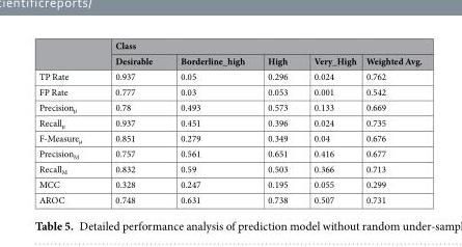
<table><thead><tr><td rowspan="2"></td><td colspan="5">Class</td></tr><tr><td>Desirable</td><td>Borderline_high</td><td>High</td><td>Very_High</td><td>Weighted Avg.</td></tr></thead><tbody><tr><td>TP Rate</td><td>0.937</td><td>0.05</td><td>0.296</td><td>0.024</td><td>0.762</td></tr><tr><td>FP Rate</td><td>0.777</td><td>0.03</td><td>0.053</td><td>0.001</td><td>0.542</td></tr><tr><td>Precision<sub>µ</sub></td><td>0.78</td><td>0.493</td><td>0.573</td><td>0.133</td><td>0.669</td></tr><tr><td>Recall<sub>µ</sub></td><td>0.937</td><td>0.451</td><td>0.396</td><td>0.024</td><td>0.735</td></tr><tr><td>F-Measure<sub>µ</sub></td><td>0.851</td><td>0.279</td><td>0.349</td><td>0.04</td><td>0.676</td></tr><tr><td>Precision<sub>M</sub></td><td>0.757</td><td>0.561</td><td>0.651</td><td>0.416</td><td>0.677</td></tr><tr><td>Recall<sub>M</sub></td><td>0.832</td><td>0.59</td><td>0.503</td><td>0.366</td><td>0.713</td></tr><tr><td>MCC</td><td>0.328</td><td>0.247</td><td>0.195</td><td>0.055</td><td>0.299</td></tr><tr><td>AROC</td><td>0.748</td><td>0.631</td><td>0.738</td><td>0.507</td><td>0.731</td></tr></tbody></table>